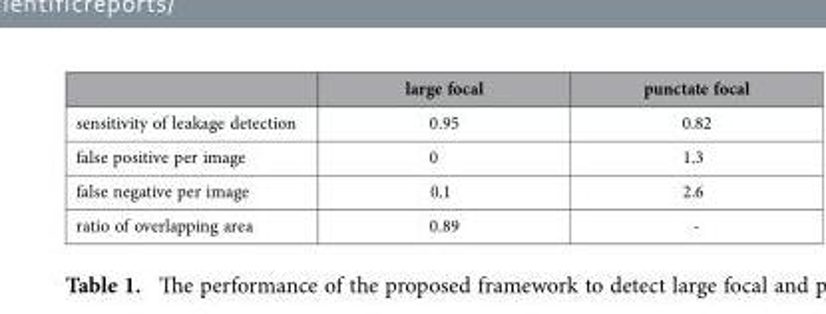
<table><thead><tr><td></td><td>large focal</td><td>punctate focal</td></tr></thead><tbody><tr><td>sensitivity of leakage detection</td><td>0.95</td><td>0.82</td></tr><tr><td>false positive per image</td><td>0</td><td>1.3</td></tr><tr><td>false negative per image</td><td>0.1</td><td>2.6</td></tr><tr><td>ratio of overlapping area</td><td>0.89</td><td>-</td></tr></tbody></table>